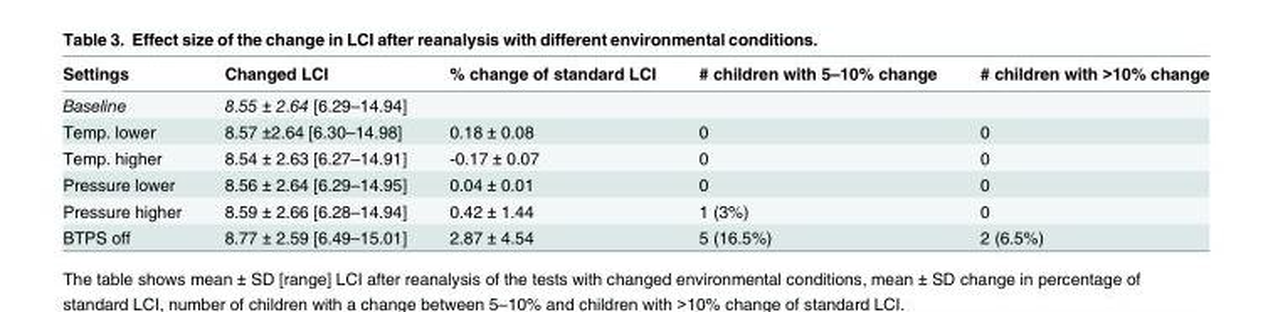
<table><thead><tr><td>Settings</td><td>Changed LCI</td><td>% change of standard LCI</td><td># children with 5–10% change</td><td># children with &gt;10% change</td></tr></thead><tbody><tr><td>Baseline</td><td>8.55 ± 2.64 [6.29–14.94]</td><td></td><td></td><td></td></tr><tr><td>Temp. lower</td><td>8.57 ±2.64 [6.30–14.98]</td><td>0.18 ± 0.08</td><td>0</td><td>0</td></tr><tr><td>Temp. higher</td><td>8.54 ± 2.63 [6.27–14.91]</td><td>-0.17 ± 0.07</td><td>0</td><td>0</td></tr><tr><td>Pressure lower</td><td>8.56 ± 2.64 [6.29–14.95]</td><td>0.04 ± 0.01</td><td>0</td><td>0</td></tr><tr><td>Pressure higher</td><td>8.59 ± 2.66 [6.28–14.94]</td><td>0.42 ± 1.44</td><td>1 (3%)</td><td>0</td></tr><tr><td>BTPS off</td><td>8.77 ± 2.59 [6.49–15.01]</td><td>2.87 ± 4.54</td><td>5 (16.5%)</td><td>2 (6.5%)</td></tr></tbody></table>